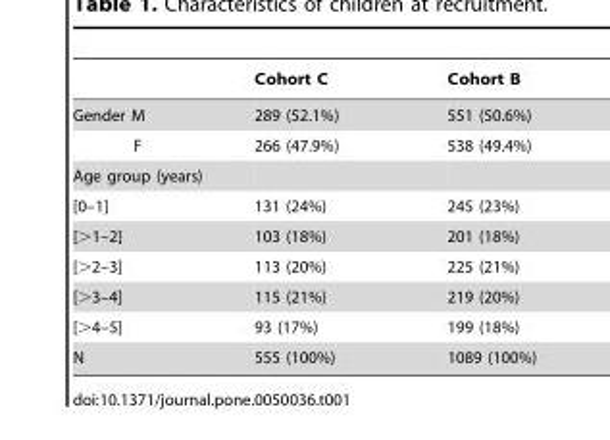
<table><thead><tr><td></td><td>Cohort C</td><td>Cohort B</td></tr></thead><tbody><tr><td>Gender M</td><td>289 (52.1%)</td><td>551 (50.6%)</td></tr><tr><td>F</td><td>266 (47.9%)</td><td>538 (49.4%)</td></tr><tr><td colspan="3">Age group (years)</td></tr><tr><td>[0–1]</td><td>131 (24%)</td><td>245 (23%)</td></tr><tr><td>[&gt;1–2]</td><td>103 (18%)</td><td>201 (18%)</td></tr><tr><td>[&gt;2–3]</td><td>113 (20%)</td><td>225 (21%)</td></tr><tr><td>[&gt;3–4]</td><td>115 (21%)</td><td>219 (20%)</td></tr><tr><td>[&gt;4–5]</td><td>93 (17%)</td><td>199 (18%)</td></tr><tr><td>N</td><td>555 (100%)</td><td>1089 (100%)</td></tr></tbody></table>